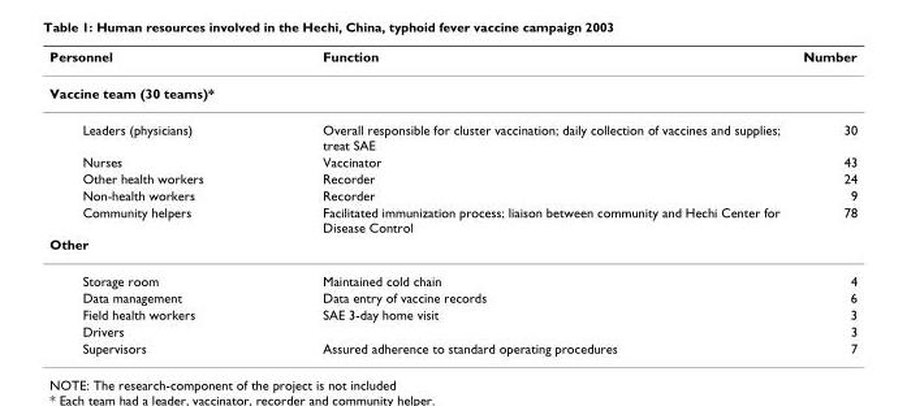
<table><thead><tr><td>Personnel</td><td>Function</td><td>Number</td></tr></thead><tbody><tr><td colspan="3">Vaccine team (30 teams)*</td></tr><tr><td>Leaders (physicians)</td><td>Overall responsible for cluster vaccination; daily collection of vaccines and supplies; treat SAE</td><td>30</td></tr><tr><td>Nurses</td><td>Vaccinator</td><td>43</td></tr><tr><td>Other health workers</td><td>Recorder</td><td>24</td></tr><tr><td>Non-health workers</td><td>Recorder</td><td>9</td></tr><tr><td>Community helpers</td><td>Facilitated immunization process; liaison between community and Hechi Center for Disease Control</td><td>78</td></tr><tr><td colspan="3">Other</td></tr><tr><td>Storage room</td><td>Maintained cold chain</td><td>4</td></tr><tr><td>Data management</td><td>Data entry of vaccine records</td><td>6</td></tr><tr><td>Field health workers</td><td>SAE 3-day home visit</td><td>3</td></tr><tr><td>Drivers</td><td></td><td>3</td></tr><tr><td>Supervisors</td><td>Assured adherence to standard operating procedures</td><td>7</td></tr></tbody></table>